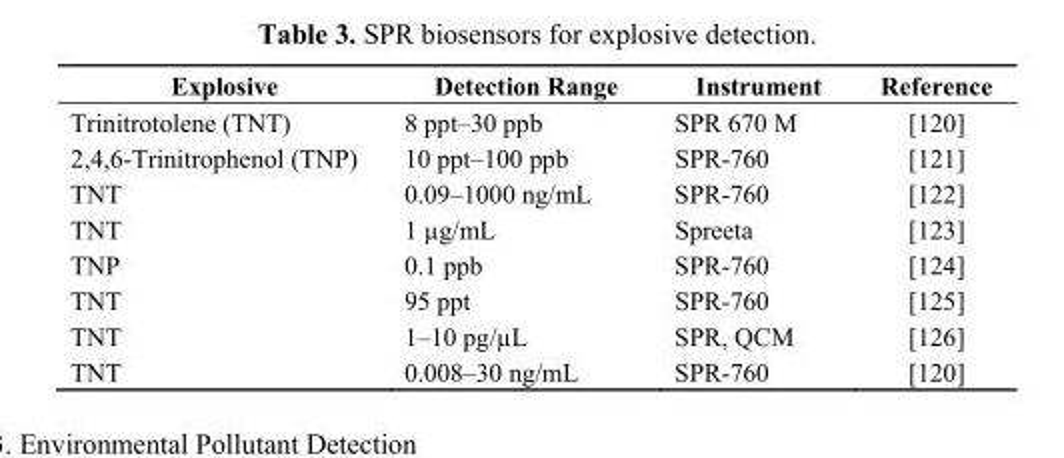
<table><thead><tr><td>Explosive</td><td>Detection Range</td><td>Instrument</td><td>Reference</td></tr></thead><tbody><tr><td>Trinitrotolene (TNT)</td><td>8 ppt–30 ppb</td><td>SPR 670 M</td><td>[120]</td></tr><tr><td>2,4,6-Trinitrophenol (TNP)</td><td>10 ppt–100 ppb</td><td>SPR-760</td><td>[121]</td></tr><tr><td>TNT</td><td>0.09–1000 ng/mL</td><td>SPR-760</td><td>[122]</td></tr><tr><td>TNT</td><td>1 µg/mL</td><td>Spreeta</td><td>[123]</td></tr><tr><td>TNP</td><td>0.1 ppb</td><td>SPR-760</td><td>[124]</td></tr><tr><td>TNT</td><td>95 ppt</td><td>SPR-760</td><td>[125]</td></tr><tr><td>TNT</td><td>1–10 pg/µL</td><td>SPR, QCM</td><td>[126]</td></tr><tr><td>TNT</td><td>0.008–30 ng/mL</td><td>SPR-760</td><td>[120]</td></tr></tbody></table>